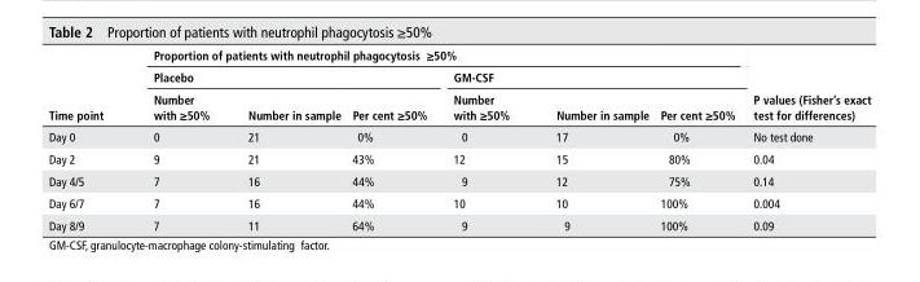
<table><thead><tr><td rowspan="3">Time point</td><td colspan="6">Proportion of patients with neutrophil phagocytosis ≥50%</td><td rowspan="3">P values (Fisher’s exact test for differences)</td></tr><tr><td colspan="3">Placebo</td><td colspan="3">GM-CsF</td></tr><tr><td>number with ≥50%</td><td>number in sample</td><td>Per cent ≥50%</td><td>number with ≥50%</td><td>number in sample</td><td>Per cent ≥50%</td></tr></thead><tbody><tr><td>Day 0</td><td>0</td><td>21</td><td>0%</td><td>0</td><td>17</td><td>0%</td><td>No test done</td></tr><tr><td>Day 2</td><td>9</td><td>21</td><td>43%</td><td>12</td><td>15</td><td>80%</td><td>0.04</td></tr><tr><td>Day 4/5</td><td>7</td><td>16</td><td>44%</td><td>9</td><td>12</td><td>75%</td><td>0.14</td></tr><tr><td>Day 6/7</td><td>7</td><td>16</td><td>44%</td><td>10</td><td>10</td><td>100%</td><td>0.004</td></tr><tr><td>Day 8/9</td><td>7</td><td>11</td><td>64%</td><td>9</td><td>9</td><td>100%</td><td>0.09</td></tr></tbody></table>